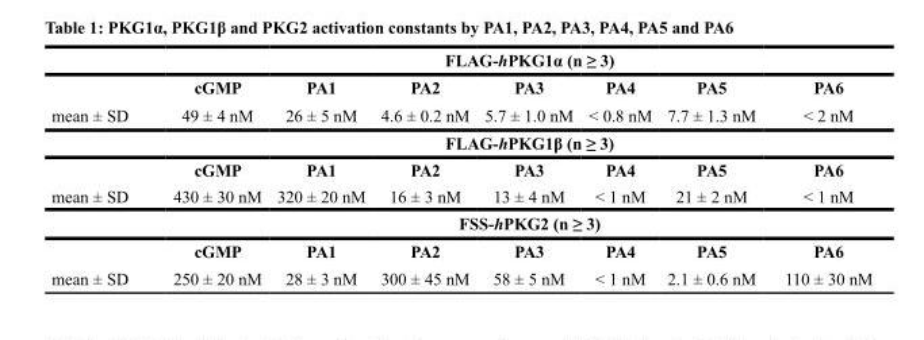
<table><thead><tr><td rowspan="2"></td><td colspan="7">FLAG-hPKG1α (n ≥ 3)</td></tr><tr><td>cGMP</td><td>PA1</td><td>PA2</td><td>PA3</td><td>PA4</td><td>PA5</td><td>PA6</td></tr></thead><tbody><tr><td rowspan="3">mean ± SD</td><td>49 ± 4 nM</td><td>26 ± 5 nM</td><td>4.6 ± 0.2 nM</td><td>5.7 ± 1.0 nM</td><td>&lt; 0.8 nM</td><td>7.7 ± 1.3 nM</td><td>&lt; 2 nM</td></tr><tr><td colspan="7">FLAG-hPKG1β (n ≥ 3)</td></tr><tr><td>cGMP</td><td>PA1</td><td>PA2</td><td>PA3</td><td>PA4</td><td>PA5</td><td>PA6</td></tr><tr><td rowspan="3">mean ± SD</td><td>430 ± 30 nM</td><td>320 ± 20 nM</td><td>16 ± 3 nM</td><td>13 ± 4 nM</td><td>&lt; 1 nM</td><td>21 ± 2 nM</td><td>&lt; 1 nM</td></tr><tr><td colspan="7">FSS-hPKG2 (n ≥ 3)</td></tr><tr><td>cGMP</td><td>PA1</td><td>PA2</td><td>PA3</td><td>PA4</td><td>PA5</td><td>PA6</td></tr><tr><td>mean ± SD</td><td>250 ± 20 nM</td><td>28 ± 3 nM</td><td>300 ± 45 nM</td><td>58 ± 5 nM</td><td>&lt; 1 nM</td><td>2.1 ± 0.6 nM</td><td>110 ± 30 nM</td></tr></tbody></table>